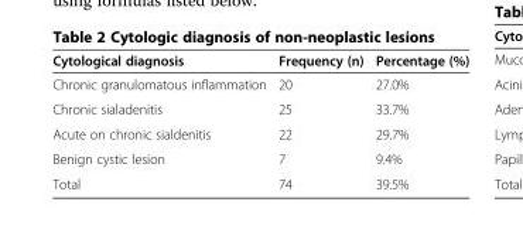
<table><thead><tr><td>Cytological diagnosis</td><td>Frequency (n)</td><td>Percentage (%)</td></tr></thead><tbody><tr><td>Chronic granulomatous inflammation</td><td>20</td><td>27.0%</td></tr><tr><td>Chronic sialadenitis</td><td>25</td><td>33.7%</td></tr><tr><td>Acute on chronic sialdenitis</td><td>22</td><td>29.7%</td></tr><tr><td>Benign cystic lesion</td><td>7</td><td>9.4%</td></tr><tr><td>Total</td><td>74</td><td>39.5%</td></tr></tbody></table>